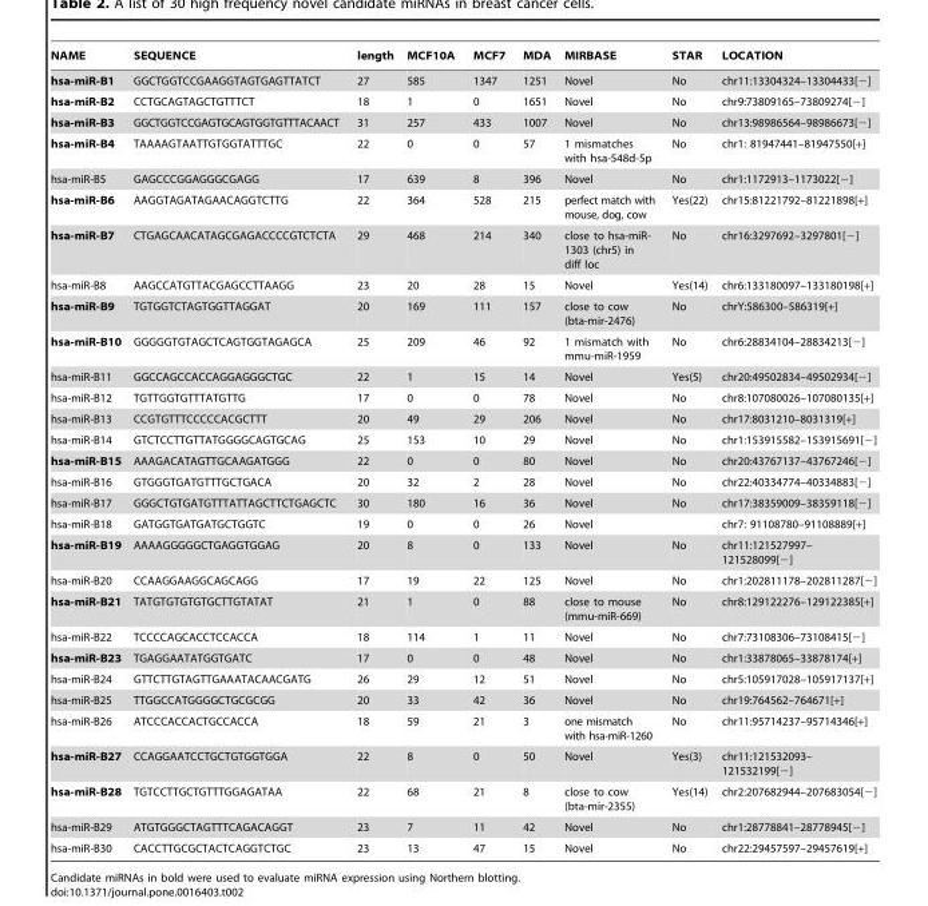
<table><thead><tr><td>NAME</td><td>SEQUENCE</td><td>length</td><td>MCF10A</td><td>MCF7</td><td>MDA</td><td>MIRBASE</td><td>STAR</td><td>LOCATION</td></tr></thead><tbody><tr><td>hsa-miR-B1</td><td>GGCTGGTCCGAAGGTAGTGAGTTATCT</td><td>27</td><td>585</td><td>1347</td><td>1251</td><td>Novel</td><td>No</td><td>chr11:13304324–13304433[−]</td></tr><tr><td>hsa-miR-B2</td><td>CCTGCAGTAGCTGTTTCT</td><td>18</td><td>1</td><td>0</td><td>1651</td><td>Novel</td><td>No</td><td>chr9:73809165–73809274[−]</td></tr><tr><td>hsa-miR-B3</td><td>GGCTGGTCCGAGTGCAGTGGTGTTTACAACT</td><td>31</td><td>257</td><td>433</td><td>1007</td><td>Novel</td><td>No</td><td>chr13:98986564–98986673[−]</td></tr><tr><td>hsa-miR-B4</td><td>TAAAAGTAATTGTGGTATTTGC</td><td>22</td><td>0</td><td>0</td><td>57</td><td>1 mismatches with hsa-548d-5p</td><td>No</td><td>chr1: 81947441–81947550[+]</td></tr><tr><td>hsa-miR-B5</td><td>GAGCCCGGAGGGCGAGG</td><td>17</td><td>639</td><td>8</td><td>396</td><td>Novel</td><td>No</td><td>chr1:1172913–1173022[−]</td></tr><tr><td>hsa-miR-B6</td><td>AAGGTAGATAGAACAGGTCTTG</td><td>22</td><td>364</td><td>528</td><td>215</td><td>perfect match with mouse, dog, cow</td><td>Yes(22)</td><td>chr15:81221792–81221898[+]</td></tr><tr><td>hsa-miR-B7</td><td>CTGAGCAACATAGCGAGACCCCGTCTCTA</td><td>29</td><td>468</td><td>214</td><td>340</td><td>close to hsa-miR- 1303 (chr5) in diff loc</td><td>No</td><td>chr16:3297692–3297801[−]</td></tr><tr><td>hsa-miR-B8</td><td>AAGCCATGTTACGAGCCTTAAGG</td><td>23</td><td>20</td><td>28</td><td>15</td><td>Novel</td><td>Yes(14)</td><td>chr6:133180097–133180198[+]</td></tr><tr><td>hsa-miR-B9</td><td>TGTGGTCTAGTGGTTAGGAT</td><td>20</td><td>169</td><td>111</td><td>157</td><td>close to cow (bta-mir-2476)</td><td>No</td><td>chrY:586300–586319[+]</td></tr><tr><td>hsa-miR-B10</td><td>GGGGGTGTAGCTCAGTGGTAGAGCA</td><td>25</td><td>209</td><td>46</td><td>92</td><td>1 mismatch with mmu-miR-1959</td><td>No</td><td>chr6:28834104–28834213[−]</td></tr><tr><td>hsa-miR-B11</td><td>GGCCAGCCACCAGGAGGGCTGC</td><td>22</td><td>1</td><td>15</td><td>14</td><td>Novel</td><td>Yes(5)</td><td>chr20:49502834–49502934[−]</td></tr><tr><td>hsa-miR-B12</td><td>TGTTGGTGTTTATGTTG</td><td>17</td><td>0</td><td>0</td><td>78</td><td>Novel</td><td>No</td><td>chr8:107080026–107080135[+]</td></tr><tr><td>hsa-miR-B13</td><td>CCGTGTTTCCCCCACGCTTT</td><td>20</td><td>49</td><td>29</td><td>206</td><td>Novel</td><td>No</td><td>chr17:8031210–8031319[+]</td></tr><tr><td>hsa-miR-B14</td><td>GTCTCCTTGTTATGGGGCAGTGCAG</td><td>25</td><td>153</td><td>10</td><td>29</td><td>Novel</td><td>No</td><td>chr1:153915582–153915691[−]</td></tr><tr><td>hsa-miR-B15</td><td>AAAGACATAGTTGCAAGATGGG</td><td>22</td><td>0</td><td>0</td><td>80</td><td>Novel</td><td>No</td><td>chr20:43767137–43767246[−]</td></tr><tr><td>hsa-miR-B16</td><td>GTGGGTGATGTTTGCTGACA</td><td>20</td><td>32</td><td>2</td><td>28</td><td>Novel</td><td>No</td><td>chr22:40334774–40334883[−]</td></tr><tr><td>hsa-miR-B17</td><td>GGGCTGTGATGTTTATTAGCTTCTGAGCTC</td><td>30</td><td>180</td><td>16</td><td>36</td><td>Novel</td><td>No</td><td>chr17:38359009–38359118[−]</td></tr><tr><td>hsa-miR-B18</td><td>GATGGTGATGATGCTGGTC</td><td>19</td><td>0</td><td>0</td><td>26</td><td>Novel</td><td></td><td>chr7: 91108780–91108889[+]</td></tr><tr><td>hsa-miR-B19</td><td>AAAAGGGGGCTGAGGTGGAG</td><td>20</td><td>8</td><td>0</td><td>133</td><td>Novel</td><td>No</td><td>chr11:121527997– 121528099[−]</td></tr><tr><td>hsa-miR-B20</td><td>CCAAGGAAGGCAGCAGG</td><td>17</td><td>19</td><td>22</td><td>125</td><td>Novel</td><td>No</td><td>chr1:202811178–202811287[−]</td></tr><tr><td>hsa-miR-B21</td><td>TATGTGTGTGTGCTTGTATAT</td><td>21</td><td>1</td><td>0</td><td>88</td><td>close to mouse (mmu-miR-669)</td><td>No</td><td>chr8:129122276–129122385[+]</td></tr><tr><td>hsa-miR-B22</td><td>TCCCCAGCACCTCCACCA</td><td>18</td><td>114</td><td>1</td><td>11</td><td>Novel</td><td>No</td><td>chr7:73108306–73108415[−]</td></tr><tr><td>hsa-miR-B23</td><td>TGAGGAATATGGTGATC</td><td>17</td><td>0</td><td>0</td><td>48</td><td>Novel</td><td>No</td><td>chr1:33878065–33878174[+]</td></tr><tr><td>hsa-miR-B24</td><td>GTTCTTGTAGTTGAAATACAACGATG</td><td>26</td><td>29</td><td>12</td><td>51</td><td>Novel</td><td>No</td><td>chr5:105917028–105917137[+]</td></tr><tr><td>hsa-miR-B25</td><td>TTGGCCATGGGGCTGCGCGG</td><td>20</td><td>33</td><td>42</td><td>36</td><td>Novel</td><td>No</td><td>chr19:764562–764671[+]</td></tr><tr><td>hsa-miR-B26</td><td>ATCCCACCACTGCCACCA</td><td>18</td><td>59</td><td>21</td><td>3</td><td>one mismatch with hsa-miR-1260</td><td>No</td><td>chr11:95714237–95714346[+]</td></tr><tr><td>hsa-miR-B27</td><td>CCAGGAATCCTGCTGTGGTGGA</td><td>22</td><td>8</td><td>0</td><td>50</td><td>Novel</td><td>Yes(3)</td><td>chr11:121532093– 121532199[−]</td></tr><tr><td>hsa-miR-B28</td><td>TGTCCTTGCTGTTTGGAGATAA</td><td>22</td><td>68</td><td>21</td><td>8</td><td>close to cow (bta-mir-2355)</td><td>Yes(14)</td><td>chr2:207682944–207683054[−]</td></tr><tr><td>hsa-miR-B29</td><td>ATGTGGGCTAGTTTCAGACAGGT</td><td>23</td><td>7</td><td>11</td><td>42</td><td>Novel</td><td>No</td><td>chr1:28778841–28778945[−]</td></tr><tr><td>hsa-miR-B30</td><td>CACCTTGCGCTACTCAGGTCTGC</td><td>23</td><td>13</td><td>47</td><td>15</td><td>Novel</td><td>No</td><td>chr22:29457597–29457619[+]</td></tr></tbody></table>